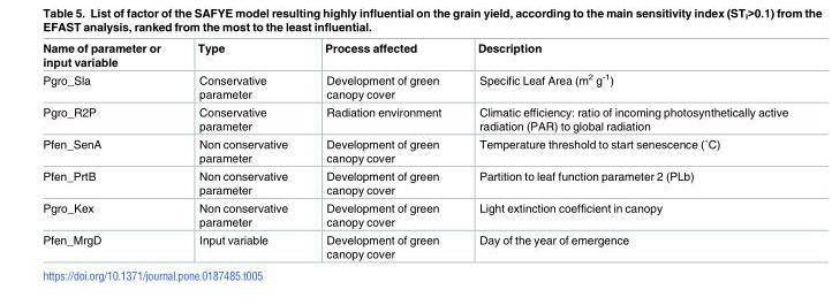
<table><thead><tr><td>Name of parameter or input variable</td><td>Type</td><td>Process affected</td><td>Description</td></tr></thead><tbody><tr><td>Pgro_Sla</td><td>Conservative parameter</td><td>Development of green canopy cover</td><td>Specific Leaf Area (m<sup>2</sup> g<sup>-1</sup>)</td></tr><tr><td>Pgro_R2P</td><td>Conservative parameter</td><td>Radiation environment</td><td>Climatic efficiency: ratio of incoming photosynthetically active radiation (PAR) to global radiation</td></tr><tr><td>Pfen_SenA</td><td>Non conservative parameter</td><td>Development of green canopy cover</td><td>Temperature threshold to start senescence (˚C)</td></tr><tr><td>Pfen_PrtB</td><td>Non conservative parameter</td><td>Development of green canopy cover</td><td>Partition to leaf function parameter 2 (PLb)</td></tr><tr><td>Pgro_Kex</td><td>Non conservative parameter</td><td>Development of green canopy cover</td><td>Light extinction coefficient in canopy</td></tr><tr><td>Pfen_MrgD</td><td>Input variable</td><td>Development of green canopy cover</td><td>Day of the year of emergence</td></tr></tbody></table>